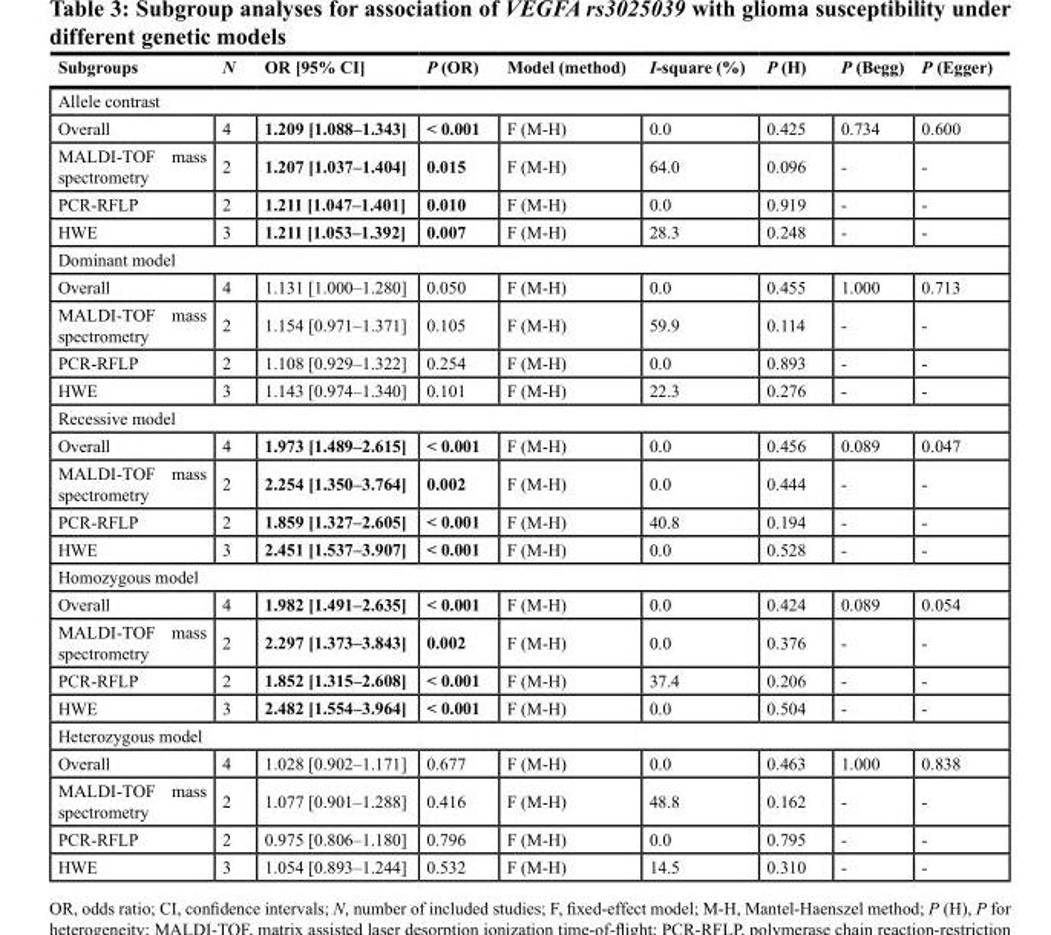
<table><thead><tr><td>Subgroups</td><td>N</td><td>OR [95% CI]</td><td>P (OR)</td><td>Model (method)</td><td>I-square (%)</td><td>P (H)</td><td>P (Begg)</td><td>P (Egger)</td></tr></thead><tbody><tr><td colspan="9">Allele contrast</td></tr><tr><td>Overall</td><td>4</td><td>1.209 [1.088–1.343]</td><td>&lt; 0.001</td><td>F (M-H)</td><td>0.0</td><td>0.425</td><td>0.734</td><td>0.600</td></tr><tr><td>MALDI-TOF mass spectrometry</td><td>2</td><td>1.207 [1.037–1.404]</td><td>0.015</td><td>F (M-H)</td><td>64.0</td><td>0.096</td><td>-</td><td>-</td></tr><tr><td>PCR-RFLP</td><td>2</td><td>1.211 [1.047–1.401]</td><td>0.010</td><td>F (M-H)</td><td>0.0</td><td>0.919</td><td>-</td><td>-</td></tr><tr><td>HWE</td><td>3</td><td>1.211 [1.053–1.392]</td><td>0.007</td><td>F (M-H)</td><td>28.3</td><td>0.248</td><td>-</td><td>-</td></tr><tr><td colspan="9">Dominant model</td></tr><tr><td>Overall</td><td>4</td><td>1.131 [1.000–1.280]</td><td>0.050</td><td>F (M-H)</td><td>0.0</td><td>0.455</td><td>1.000</td><td>0.713</td></tr><tr><td>MALDI-TOF mass spectrometry</td><td>2</td><td>1.154 [0.971–1.371]</td><td>0.105</td><td>F (M-H)</td><td>59.9</td><td>0.114</td><td>-</td><td>-</td></tr><tr><td>PCR-RFLP</td><td>2</td><td>1.108 [0.929–1.322]</td><td>0.254</td><td>F (M-H)</td><td>0.0</td><td>0.893</td><td>-</td><td>-</td></tr><tr><td>HWE</td><td>3</td><td>1.143 [0.974–1.340]</td><td>0.101</td><td>F (M-H)</td><td>22.3</td><td>0.276</td><td>-</td><td>-</td></tr><tr><td colspan="9">Recessive model</td></tr><tr><td>Overall</td><td>4</td><td>1.973 [1.489–2.615]</td><td>&lt; 0.001</td><td>F (M-H)</td><td>0.0</td><td>0.456</td><td>0.089</td><td>0.047</td></tr><tr><td>MALDI-TOF mass spectrometry</td><td>2</td><td>2.254 [1.350–3.764]</td><td>0.002</td><td>F (M-H)</td><td>0.0</td><td>0.444</td><td>-</td><td>-</td></tr><tr><td>PCR-RFLP</td><td>2</td><td>1.859 [1.327–2.605]</td><td>&lt; 0.001</td><td>F (M-H)</td><td>40.8</td><td>0.194</td><td>-</td><td>-</td></tr><tr><td>HWE</td><td>3</td><td>2.451 [1.537–3.907]</td><td>&lt; 0.001</td><td>F (M-H)</td><td>0.0</td><td>0.528</td><td>-</td><td>-</td></tr><tr><td colspan="9">Homozygous model</td></tr><tr><td>Overall</td><td>4</td><td>1.982 [1.491–2.635]</td><td>&lt; 0.001</td><td>F (M-H)</td><td>0.0</td><td>0.424</td><td>0.089</td><td>0.054</td></tr><tr><td>MALDI-TOF mass spectrometry</td><td>2</td><td>2.297 [1.373–3.843]</td><td>0.002</td><td>F (M-H)</td><td>0.0</td><td>0.376</td><td>-</td><td>-</td></tr><tr><td>PCR-RFLP</td><td>2</td><td>1.852 [1.315–2.608]</td><td>&lt; 0.001</td><td>F (M-H)</td><td>37.4</td><td>0.206</td><td>-</td><td>-</td></tr><tr><td>HWE</td><td>3</td><td>2.482 [1.554–3.964]</td><td>&lt; 0.001</td><td>F (M-H)</td><td>0.0</td><td>0.504</td><td>-</td><td>-</td></tr><tr><td colspan="9">Heterozygous model</td></tr><tr><td>Overall</td><td>4</td><td>1.028 [0.902–1.171]</td><td>0.677</td><td>F (M-H)</td><td>0.0</td><td>0.463</td><td>1.000</td><td>0.838</td></tr><tr><td>MALDI-TOF mass spectrometry</td><td>2</td><td>1.077 [0.901–1.288]</td><td>0.416</td><td>F (M-H)</td><td>48.8</td><td>0.162</td><td>-</td><td>-</td></tr><tr><td>PCR-RFLP</td><td>2</td><td>0.975 [0.806–1.180]</td><td>0.796</td><td>F (M-H)</td><td>0.0</td><td>0.795</td><td>-</td><td>-</td></tr><tr><td>HWE</td><td>3</td><td>1.054 [0.893–1.244]</td><td>0.532</td><td>F (M-H)</td><td>14.5</td><td>0.310</td><td>-</td><td>-</td></tr></tbody></table>